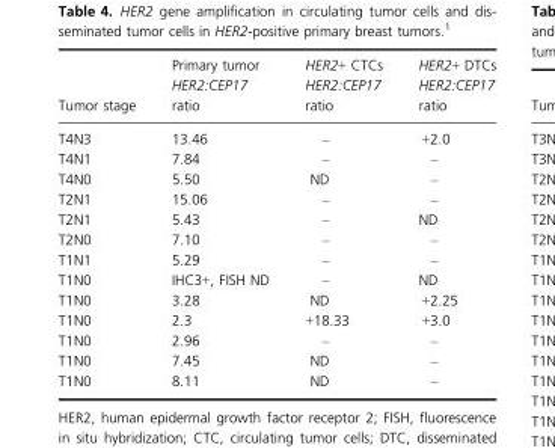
<table><thead><tr><td>Tumor stage</td><td>Primary tumor HER2:CEP17 ratio</td><td>HER2+ CTCs HER2:CEP17 ratio</td><td>HER2+ DTCs HER2:CEP17 ratio</td></tr></thead><tbody><tr><td>T4N3</td><td>13.46</td><td>–</td><td>+2.0</td></tr><tr><td>T4N1</td><td>7.84</td><td>–</td><td>–</td></tr><tr><td>T4N0</td><td>5.50</td><td>ND</td><td>–</td></tr><tr><td>T2N1</td><td>15.06</td><td>–</td><td>–</td></tr><tr><td>T2N1</td><td>5.43</td><td>–</td><td>ND</td></tr><tr><td>T2N0</td><td>7.10</td><td>–</td><td>–</td></tr><tr><td>T1N1</td><td>5.29</td><td>–</td><td>–</td></tr><tr><td>T1N0</td><td>IHC3+, FISH ND</td><td>–</td><td>ND</td></tr><tr><td>T1N0</td><td>3.28</td><td>ND</td><td>+2.25</td></tr><tr><td>T1N0</td><td>2.3</td><td>+18.33</td><td>+3.0</td></tr><tr><td>T1N0</td><td>2.96</td><td>–</td><td>–</td></tr><tr><td>T1N0</td><td>7.45</td><td>ND</td><td>–</td></tr><tr><td>T1N0</td><td>8.11</td><td>ND</td><td>–</td></tr></tbody></table>